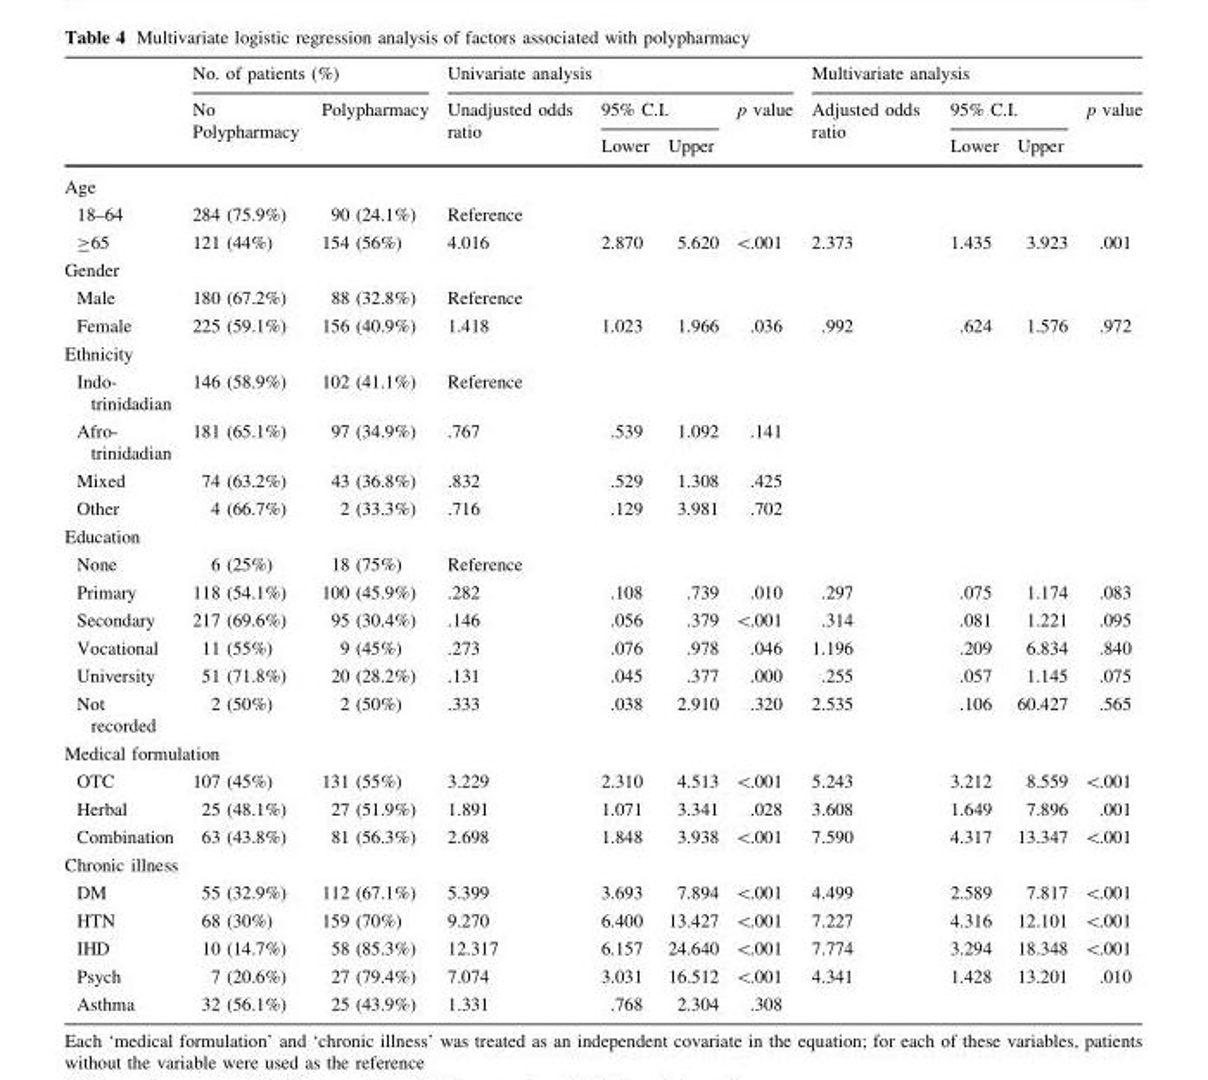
<table><thead><tr><td rowspan="3"></td><td colspan="2">No. of patients (%)</td><td colspan="4">Univariate analysis</td><td colspan="4">Multivariate analysis</td></tr><tr><td rowspan="2">No Polypharmacy</td><td rowspan="2">Polypharmacy</td><td rowspan="2">Unadjusted odds ratio</td><td colspan="2">95% C.I.</td><td rowspan="2">p value</td><td rowspan="2">Adjusted odds ratio</td><td colspan="2">95% C.I.</td><td rowspan="2">p value</td></tr><tr><td>Lower</td><td>Upper</td><td>Lower</td><td>Upper</td></tr></thead><tbody><tr><td colspan="11">Age</td></tr><tr><td>18–64</td><td>284 (75.9%)</td><td>90 (24.1%)</td><td>Reference</td><td></td><td></td><td></td><td></td><td></td><td></td><td></td></tr><tr><td>≥65</td><td>121 (44%)</td><td>154 (56%)</td><td>4.016</td><td>2.870</td><td>5.620</td><td>&lt;.001</td><td>2.373</td><td>1.435</td><td>3.923</td><td>.001</td></tr><tr><td colspan="11">Gender</td></tr><tr><td>Male</td><td>180 (67.2%)</td><td>88 (32.8%)</td><td>Reference</td><td></td><td></td><td></td><td></td><td></td><td></td><td></td></tr><tr><td>Female</td><td>225 (59.1%)</td><td>156 (40.9%)</td><td>1.418</td><td>1.023</td><td>1.966</td><td>.036</td><td>.992</td><td>.624</td><td>1.576</td><td>.972</td></tr><tr><td colspan="11">Ethnicity</td></tr><tr><td>Indo- trinidadian</td><td>146 (58.9%)</td><td>102 (41.1%)</td><td>Reference</td><td></td><td></td><td></td><td></td><td></td><td></td><td></td></tr><tr><td>Afro- trinidadian</td><td>181 (65.1%)</td><td>97 (34.9%)</td><td>.767</td><td>.539</td><td>1.092</td><td>.141</td><td></td><td></td><td></td><td></td></tr><tr><td>Mixed</td><td>74 (63.2%)</td><td>43 (36.8%)</td><td>.832</td><td>.529</td><td>1.308</td><td>.425</td><td></td><td></td><td></td><td></td></tr><tr><td>Other</td><td>4 (66.7%)</td><td>2 (33.3%)</td><td>.716</td><td>.129</td><td>3.981</td><td>.702</td><td></td><td></td><td></td><td></td></tr><tr><td colspan="11">Education</td></tr><tr><td>None</td><td>6 (25%)</td><td>18 (75%)</td><td>Reference</td><td></td><td></td><td></td><td></td><td></td><td></td><td></td></tr><tr><td>Primary</td><td>118 (54.1%)</td><td>100 (45.9%)</td><td>.282</td><td>.108</td><td>.739</td><td>.010</td><td>.297</td><td>.075</td><td>1.174</td><td>.083</td></tr><tr><td>Secondary</td><td>217 (69.6%)</td><td>95 (30.4%)</td><td>.146</td><td>.056</td><td>.379</td><td>&lt;.001</td><td>.314</td><td>.081</td><td>1.221</td><td>.095</td></tr><tr><td>Vocational</td><td>11 (55%)</td><td>9 (45%)</td><td>.273</td><td>.076</td><td>.978</td><td>.046</td><td>1.196</td><td>.209</td><td>6.834</td><td>.840</td></tr><tr><td>University</td><td>51 (71.8%)</td><td>20 (28.2%)</td><td>.131</td><td>.045</td><td>.377</td><td>.000</td><td>.255</td><td>.057</td><td>1.145</td><td>.075</td></tr><tr><td>Not recorded</td><td>2 (50%)</td><td>2 (50%)</td><td>.333</td><td>.038</td><td>2.910</td><td>.320</td><td>2.535</td><td>.106</td><td>60.427</td><td>.565</td></tr><tr><td colspan="11">Medical formulation</td></tr><tr><td>OTC</td><td>107 (45%)</td><td>131 (55%)</td><td>3.229</td><td>2.310</td><td>4.513</td><td>&lt;.001</td><td>5.243</td><td>3.212</td><td>8.559</td><td>&lt;.001</td></tr><tr><td>Herbal</td><td>25 (48.1%)</td><td>27 (51.9%)</td><td>1.891</td><td>1.071</td><td>3.341</td><td>.028</td><td>3.608</td><td>1.649</td><td>7.896</td><td>.001</td></tr><tr><td>Combination</td><td>63 (43.8%)</td><td>81 (56.3%)</td><td>2.698</td><td>1.848</td><td>3.938</td><td>&lt;.001</td><td>7.590</td><td>4.317</td><td>13.347</td><td>&lt;.001</td></tr><tr><td colspan="11">Chronic illness</td></tr><tr><td>DM</td><td>55 (32.9%)</td><td>112 (67.1%)</td><td>5.399</td><td>3.693</td><td>7.894</td><td>&lt;.001</td><td>4.499</td><td>2.589</td><td>7.817</td><td>&lt;.001</td></tr><tr><td>HTN</td><td>68 (30%)</td><td>159 (70%)</td><td>9.270</td><td>6.400</td><td>13.427</td><td>&lt;.001</td><td>7.227</td><td>4.316</td><td>12.101</td><td>&lt;.001</td></tr><tr><td>IHD</td><td>10 (14.7%)</td><td>58 (85.3%)</td><td>12.317</td><td>6.157</td><td>24.640</td><td>&lt;.001</td><td>7.774</td><td>3.294</td><td>18.348</td><td>&lt;.001</td></tr><tr><td>Psych</td><td>7 (20.6%)</td><td>27 (79.4%)</td><td>7.074</td><td>3.031</td><td>16.512</td><td>&lt;.001</td><td>4.341</td><td>1.428</td><td>13.201</td><td>.010</td></tr><tr><td>Asthma</td><td>32 (56.1%)</td><td>25 (43.9%)</td><td>1.331</td><td>.768</td><td>2.304</td><td>.308</td><td></td><td></td><td></td><td></td></tr></tbody></table>